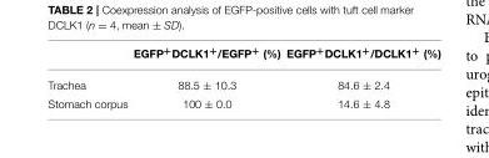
<table><thead><tr><td></td><td>EGFP<sup>+</sup>DCLK1<sup>+</sup>/EGFP<sup>+</sup> (%)</td><td>EGFP<sup>+</sup>DCLK1<sup>+</sup>/DCLK1<sup>+</sup> (%)</td></tr></thead><tbody><tr><td>Trachea</td><td>88.5 ± 10.3</td><td>84.6 ± 2.4</td></tr><tr><td>Stomach corpus</td><td>100 ± 0.0</td><td>14.6 ± 4.8</td></tr></tbody></table>